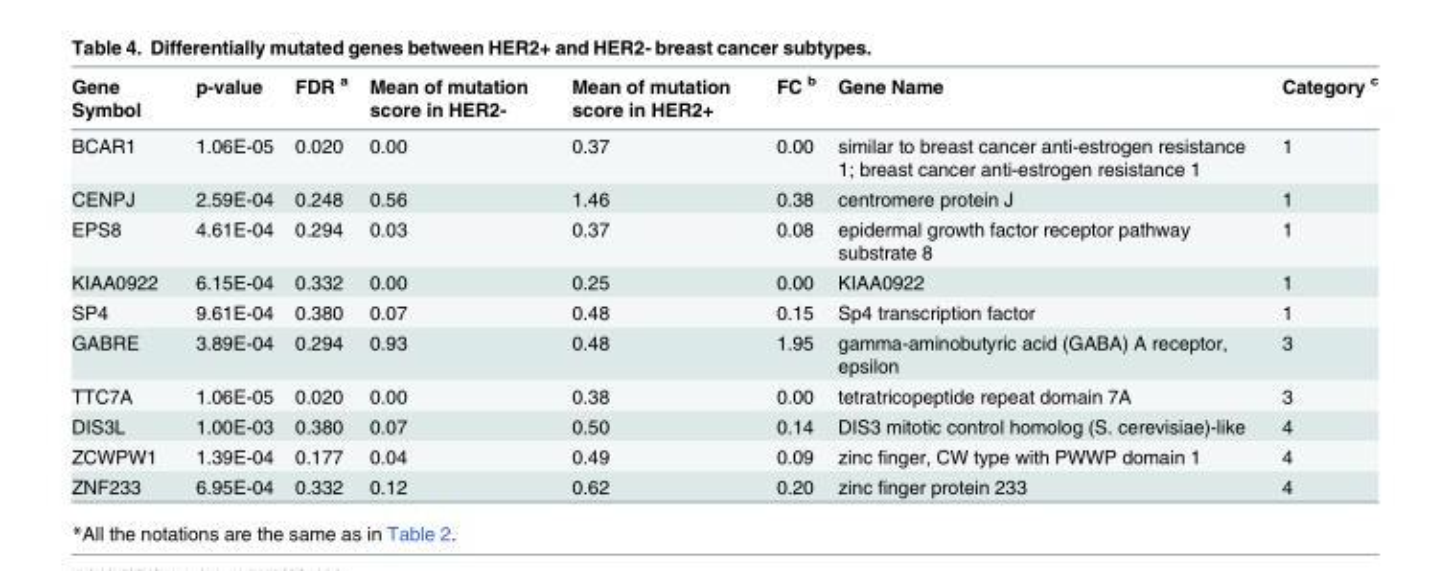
<table><thead><tr><td>Gene Symbol</td><td>p-value</td><td>FDR <sup>a</sup></td><td>Mean of mutation score in HER2-</td><td>Mean of mutation score in HER2+</td><td>FC <sup>b</sup></td><td>Gene Name</td><td>Category <sup>c</sup></td></tr></thead><tbody><tr><td>BCAR1</td><td>1.06E-05</td><td>0.020</td><td>0.00</td><td>0.37</td><td>0.00</td><td>similar to breast cancer anti-estrogen resistance 1; breast cancer anti-estrogen resistance 1</td><td>1</td></tr><tr><td>CENPJ</td><td>2.59E-04</td><td>0.248</td><td>0.56</td><td>1.46</td><td>0.38</td><td>centromere protein J</td><td>1</td></tr><tr><td>EPS8</td><td>4.61E-04</td><td>0.294</td><td>0.03</td><td>0.37</td><td>0.08</td><td>epidermal growth factor receptor pathway substrate 8</td><td>1</td></tr><tr><td>KIAA0922</td><td>6.15E-04</td><td>0.332</td><td>0.00</td><td>0.25</td><td>0.00</td><td>KIAA0922</td><td>1</td></tr><tr><td>SP4</td><td>9.61E-04</td><td>0.380</td><td>0.07</td><td>0.48</td><td>0.15</td><td>Sp4 transcription factor</td><td>1</td></tr><tr><td>GABRE</td><td>3.89E-04</td><td>0.294</td><td>0.93</td><td>0.48</td><td>1.95</td><td>gamma-aminobutyric acid (GABA) A receptor, epsilon</td><td>3</td></tr><tr><td>TTC7A</td><td>1.06E-05</td><td>0.020</td><td>0.00</td><td>0.38</td><td>0.00</td><td>tetratricopeptide repeat domain 7A</td><td>3</td></tr><tr><td>DIS3L</td><td>1.00E-03</td><td>0.380</td><td>0.07</td><td>0.50</td><td>0.14</td><td>DIS3 mitotic control homolog (S. cerevisiae)-like</td><td>4</td></tr><tr><td>ZCWPW1</td><td>1.39E-04</td><td>0.177</td><td>0.04</td><td>0.49</td><td>0.09</td><td>zinc finger, CW type with PWWP domain 1</td><td>4</td></tr><tr><td>ZNF233</td><td>6.95E-04</td><td>0.332</td><td>0.12</td><td>0.62</td><td>0.20</td><td>zinc finger protein 233</td><td>4</td></tr></tbody></table>